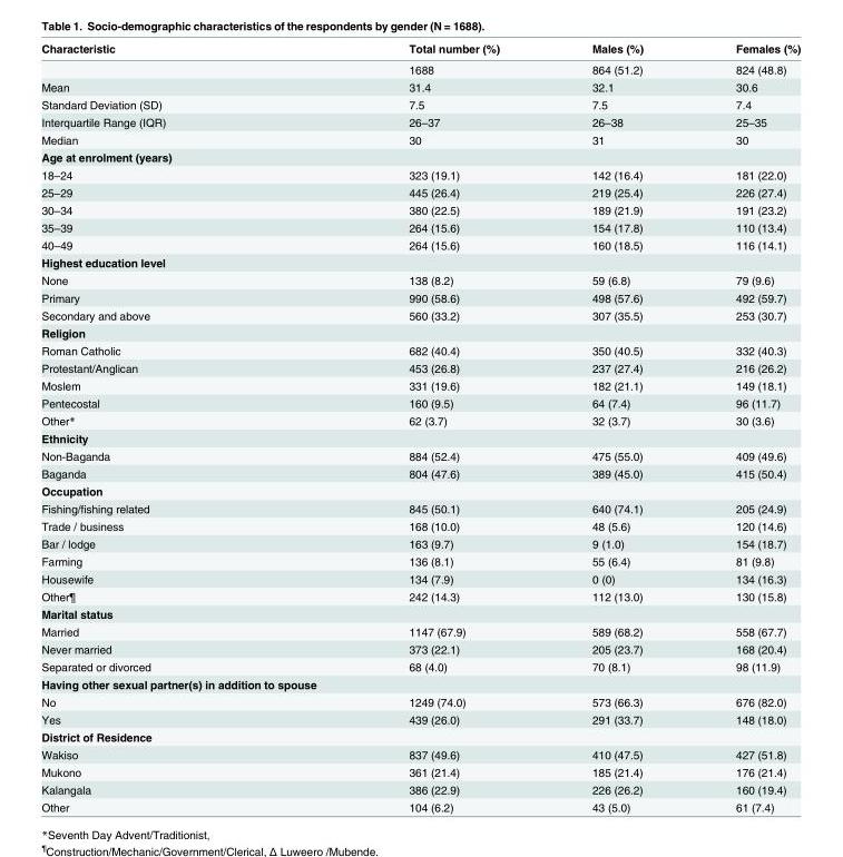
<table><thead><tr><td>Characteristic</td><td>Total number (%)</td><td>Males (%)</td><td>Females (%)</td></tr></thead><tbody><tr><td></td><td>1688</td><td>864 (51.2)</td><td>824 (48.8)</td></tr><tr><td>Mean</td><td>31.4</td><td>32.1</td><td>30.6</td></tr><tr><td>Standard Deviation (SD)</td><td>7.5</td><td>7.5</td><td>7.4</td></tr><tr><td>Interquartile Range (IQR)</td><td>26–37</td><td>26–38</td><td>25–35</td></tr><tr><td>Median</td><td>30</td><td>31</td><td>30</td></tr><tr><td colspan="4">Age at enrolment (years)</td></tr><tr><td>18–24</td><td>323 (19.1)</td><td>142 (16.4)</td><td>181 (22.0)</td></tr><tr><td>25–29</td><td>445 (26.4)</td><td>219 (25.4)</td><td>226 (27.4)</td></tr><tr><td>30–34</td><td>380 (22.5)</td><td>189 (21.9)</td><td>191 (23.2)</td></tr><tr><td>35–39</td><td>264 (15.6)</td><td>154 (17.8)</td><td>110 (13.4)</td></tr><tr><td>40–49</td><td>264 (15.6)</td><td>160 (18.5)</td><td>116 (14.1)</td></tr><tr><td colspan="4">Highest education level</td></tr><tr><td>None</td><td>138 (8.2)</td><td>59 (6.8)</td><td>79 (9.6)</td></tr><tr><td>Primary</td><td>990 (58.6)</td><td>498 (57.6)</td><td>492 (59.7)</td></tr><tr><td>Secondary and above</td><td>560 (33.2)</td><td>307 (35.5)</td><td>253 (30.7)</td></tr><tr><td colspan="4">Religion</td></tr><tr><td>Roman Catholic</td><td>682 (40.4)</td><td>350 (40.5)</td><td>332 (40.3)</td></tr><tr><td>Protestant/Anglican</td><td>453 (26.8)</td><td>237 (27.4)</td><td>216 (26.2)</td></tr><tr><td>Moslem</td><td>331 (19.6)</td><td>182 (21.1)</td><td>149 (18.1)</td></tr><tr><td>Pentecostal</td><td>160 (9.5)</td><td>64 (7.4)</td><td>96 (11.7)</td></tr><tr><td>Other*</td><td>62 (3.7)</td><td>32 (3.7)</td><td>30 (3.6)</td></tr><tr><td colspan="4">Ethnicity</td></tr><tr><td>Non-Baganda</td><td>884 (52.4)</td><td>475 (55.0)</td><td>409 (49.6)</td></tr><tr><td>Baganda</td><td>804 (47.6)</td><td>389 (45.0)</td><td>415 (50.4)</td></tr><tr><td colspan="4">Occupation</td></tr><tr><td>Fishing/fishing related</td><td>845 (50.1)</td><td>640 (74.1)</td><td>205 (24.9)</td></tr><tr><td>Trade / business</td><td>168 (10.0)</td><td>48 (5.6)</td><td>120 (14.6)</td></tr><tr><td>Bar / lodge</td><td>163 (9.7)</td><td>9 (1.0)</td><td>154 (18.7)</td></tr><tr><td>Farming</td><td>136 (8.1)</td><td>55 (6.4)</td><td>81 (9.8)</td></tr><tr><td>Housewife</td><td>134 (7.9)</td><td>0 (0)</td><td>134 (16.3)</td></tr><tr><td>Other¶</td><td>242 (14.3)</td><td>112 (13.0)</td><td>130 (15.8)</td></tr><tr><td colspan="4">Marital status</td></tr><tr><td>Married</td><td>1147 (67.9)</td><td>589 (68.2)</td><td>558 (67.7)</td></tr><tr><td>Never married</td><td>373 (22.1)</td><td>205 (23.7)</td><td>168 (20.4)</td></tr><tr><td>Separated or divorced</td><td>68 (4.0)</td><td>70 (8.1)</td><td>98 (11.9)</td></tr><tr><td colspan="4">Having other sexual partner(s) in addition to spouse</td></tr><tr><td>No</td><td>1249 (74.0)</td><td>573 (66.3)</td><td>676 (82.0)</td></tr><tr><td>Yes</td><td>439 (26.0)</td><td>291 (33.7)</td><td>148 (18.0)</td></tr><tr><td colspan="4">District of Residence</td></tr><tr><td>Wakiso</td><td>837 (49.6)</td><td>410 (47.5)</td><td>427 (51.8)</td></tr><tr><td>Mukono</td><td>361 (21.4)</td><td>185 (21.4)</td><td>176 (21.4)</td></tr><tr><td>Kalangala</td><td>386 (22.9)</td><td>226 (26.2)</td><td>160 (19.4)</td></tr><tr><td>Other</td><td>104 (6.2)</td><td>43 (5.0)</td><td>61 (7.4)</td></tr></tbody></table>